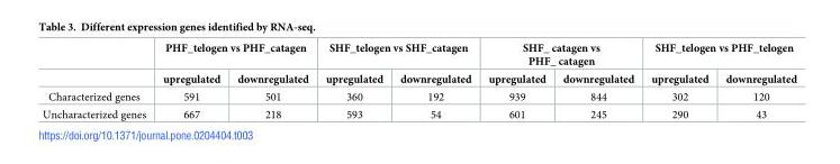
<table><thead><tr><td rowspan="2"></td><td colspan="2">PHF_telogen vs PHF_catagen</td><td colspan="2">SHF_telogen vs SHF_catagen</td><td colspan="2">SHF_ catagen vs PHF_ catagen</td><td colspan="2">SHF_telogen vs PHF_telogen</td></tr><tr><td>upregulated</td><td>downregulated</td><td>upregulated</td><td>downregulated</td><td>upregulated</td><td>downregulated</td><td>upregulated</td><td>downregulated</td></tr></thead><tbody><tr><td>Characterized genes</td><td>591</td><td>501</td><td>360</td><td>192</td><td>939</td><td>844</td><td>302</td><td>120</td></tr><tr><td>Uncharacterized genes</td><td>667</td><td>218</td><td>593</td><td>54</td><td>601</td><td>245</td><td>290</td><td>43</td></tr></tbody></table>